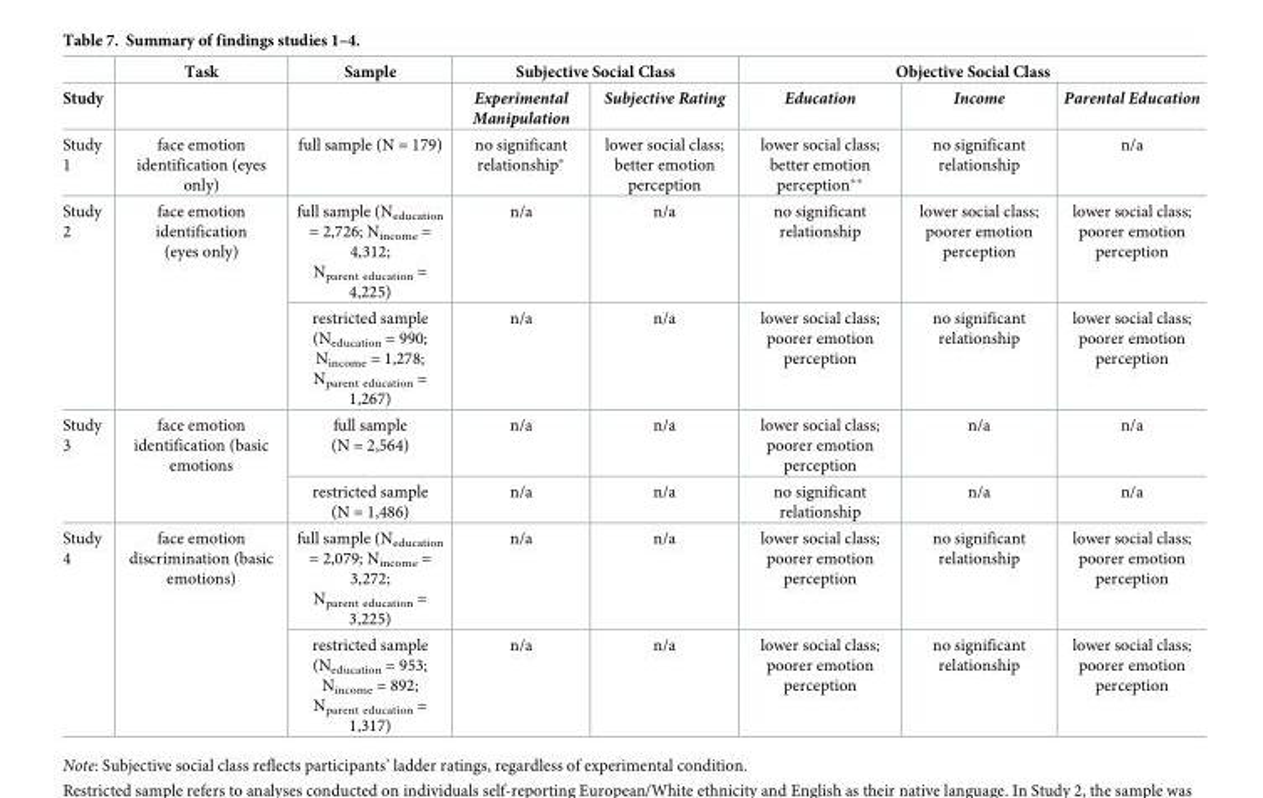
<table><thead><tr><td rowspan="2">Study</td><td rowspan="2">Task</td><td rowspan="2">Sample</td><td colspan="2">Subjective Social Class</td><td colspan="3">Objective Social Class</td></tr><tr><td>Experimental Manipulation</td><td>Subjective Rating</td><td>Education</td><td>Income</td><td>Parental Education</td></tr></thead><tbody><tr><td>Study 1</td><td>face emotion identification (eyes only)</td><td>full sample (N = 179)</td><td>no significant relationship*</td><td>lower social class; better emotion perception</td><td>lower social class; better emotion perception**</td><td>no significant relationship</td><td>n/a</td></tr><tr><td rowspan="2">Study 2</td><td rowspan="2">face emotion identification (eyes only)</td><td>full sample (N<sub>education</sub> = 2,726; N<sub>income</sub> = 4,312; N<sub>parent education</sub> = 4,225)</td><td>n/a</td><td>n/a</td><td>no significant relationship</td><td>lower social class; poorer emotion perception</td><td>lower social class; poorer emotion perception</td></tr><tr><td>restricted sample (Neducation = 990; Nincome = 1,278; Nparent education = 1,267)</td><td>n/a</td><td>n/a</td><td>lower social class; poorer emotion perception</td><td>no significant relationship</td><td>lower social class; poorer emotion perception</td></tr><tr><td rowspan="2">Study 3</td><td rowspan="2">face emotion identification (basic emotions</td><td>full sample (N = 2,564)</td><td>n/a</td><td>n/a</td><td>lower social class; poorer emotion perception</td><td>n/a</td><td>n/a</td></tr><tr><td>restricted sample (N = 1,486)</td><td>n/a</td><td>n/a</td><td>no significant relationship</td><td>n/a</td><td>n/a</td></tr><tr><td rowspan="2">Study 4</td><td rowspan="2">face emotion discrimination (basic emotions)</td><td>full sample (N<sub>education</sub> = 2,079; N<sub>income</sub> = 3,272; N<sub>parent education</sub> = 3,225)</td><td>n/a</td><td>n/a</td><td>lower social class; poorer emotion perception</td><td>no significant relationship</td><td>lower social class; poorer emotion perception</td></tr><tr><td>restricted sample (Neducation = 953; Nincome = 892; Nparent education = 1,317)</td><td>n/a</td><td>n/a</td><td>lower social class; poorer emotion perception</td><td>no significant relationship</td><td>lower social class; poorer emotion perception</td></tr></tbody></table>